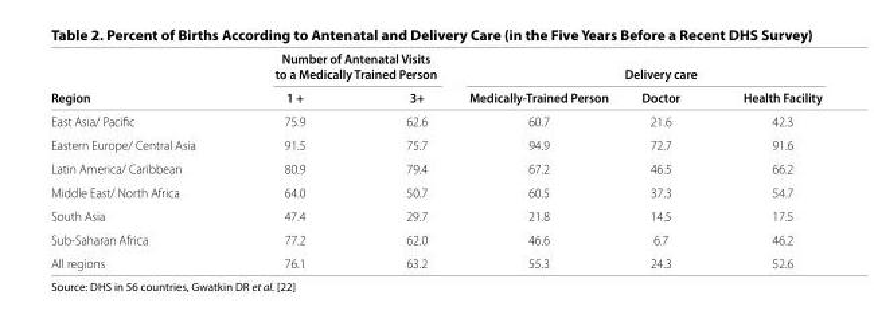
<table><thead><tr><td rowspan="2">Region</td><td colspan="2">Number of Antenatal Visits to a Medically Trained Person</td><td colspan="3">Delivery care</td></tr><tr><td>1 +</td><td>3+</td><td>Medically-Trained Person</td><td>Doctor</td><td>Health Facility</td></tr></thead><tbody><tr><td>East Asia/ Pacifi c</td><td>75.9</td><td>62.6</td><td>60.7</td><td>21.6</td><td>42.3</td></tr><tr><td>Eastern Europe/ Central Asia</td><td>91.5</td><td>75.7</td><td>94.9</td><td>72.7</td><td>91.6</td></tr><tr><td>Latin America/ Caribbean</td><td>80.9</td><td>79.4</td><td>67.2</td><td>46.5</td><td>66.2</td></tr><tr><td>Middle East/ North Africa</td><td>64.0</td><td>50.7</td><td>60.5</td><td>37.3</td><td>54.7</td></tr><tr><td>South Asia</td><td>47.4</td><td>29.7</td><td>21.8</td><td>14.5</td><td>17.5</td></tr><tr><td>Sub-Saharan Africa</td><td>77.2</td><td>62.0</td><td>46.6</td><td>6.7</td><td>46.2</td></tr><tr><td>All regions</td><td>76.1</td><td>63.2</td><td>55.3</td><td>24.3</td><td>52.6</td></tr></tbody></table>